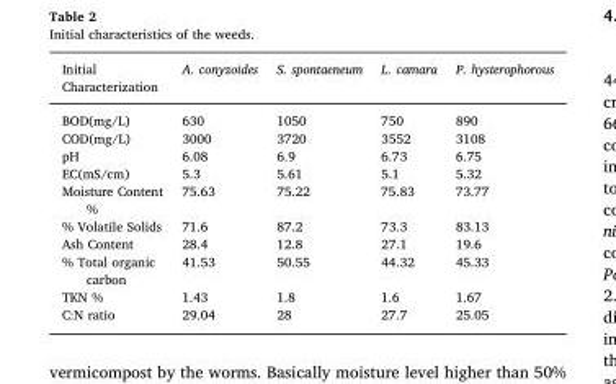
<table><thead><tr><td>Initial Characterization</td><td>A. conyzoides</td><td>S. spontaeneum</td><td>L. camara</td><td>P. hysterophorous</td></tr></thead><tbody><tr><td>BOD(mg/L)</td><td>630</td><td>1050</td><td>750</td><td>890</td></tr><tr><td>COD(mg/L)</td><td>3000</td><td>3720</td><td>3552</td><td>3108</td></tr><tr><td>pH</td><td>6.08</td><td>6.9</td><td>6.73</td><td>6.75</td></tr><tr><td>EC(mS/cm)</td><td>5.3</td><td>5.61</td><td>5.1</td><td>5.32</td></tr><tr><td>Moisture Content %</td><td>75.63</td><td>75.22</td><td>75.83</td><td>73.77</td></tr><tr><td>% Volatile Solids</td><td>71.6</td><td>87.2</td><td>73.3</td><td>83.13</td></tr><tr><td>Ash Content</td><td>28.4</td><td>12.8</td><td>27.1</td><td>19.6</td></tr><tr><td>% Total organic carbon</td><td>41.53</td><td>50.55</td><td>44.32</td><td>45.33</td></tr><tr><td>TKN %</td><td>1.43</td><td>1.8</td><td>1.6</td><td>1.67</td></tr><tr><td>C:N ratio</td><td>29.04</td><td>28</td><td>27.7</td><td>25.05</td></tr></tbody></table>